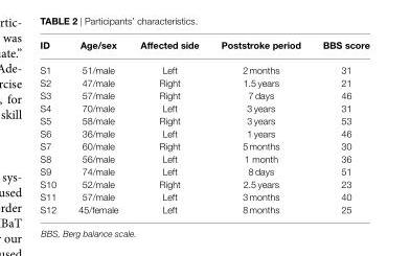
<table><thead><tr><td>ID</td><td>Age/sex</td><td>Affected side</td><td>Poststroke period</td><td>BBS score</td></tr></thead><tbody><tr><td>S1</td><td>51/male</td><td>Left</td><td>2 months</td><td>31</td></tr><tr><td>S2</td><td>47/male</td><td>Right</td><td>1.5 years</td><td>21</td></tr><tr><td>S3</td><td>57/male</td><td>Right</td><td>7 days</td><td>46</td></tr><tr><td>S4</td><td>70/male</td><td>Left</td><td>3 years</td><td>31</td></tr><tr><td>S5</td><td>58/male</td><td>Right</td><td>3 years</td><td>53</td></tr><tr><td>S6</td><td>36/male</td><td>Left</td><td>1 years</td><td>46</td></tr><tr><td>S7</td><td>60/male</td><td>Right</td><td>5 months</td><td>30</td></tr><tr><td>S8</td><td>56/male</td><td>Left</td><td>1 month</td><td>36</td></tr><tr><td>S9</td><td>74/male</td><td>Left</td><td>8 days</td><td>51</td></tr><tr><td>S10</td><td>52/male</td><td>Right</td><td>2.5 years</td><td>23</td></tr><tr><td>S11</td><td>57/male</td><td>Left</td><td>3 months</td><td>40</td></tr><tr><td>S12</td><td>45/female</td><td>Left</td><td>8 months</td><td>25</td></tr></tbody></table>